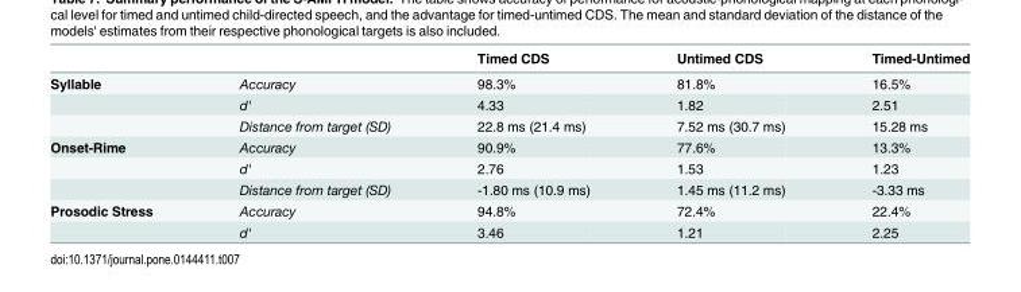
<table><thead><tr><td></td><td></td><td>Timed CDS</td><td>Untimed CDS</td><td>Timed-Untimed</td></tr></thead><tbody><tr><td rowspan="3">Syllable</td><td>Accuracy</td><td>98.3%</td><td>81.8%</td><td>16.5%</td></tr><tr><td>d&#x27;</td><td>4.33</td><td>1.82</td><td>2.51</td></tr><tr><td>Distance from target (SD)</td><td>22.8 ms (21.4 ms)</td><td>7.52 ms (30.7 ms)</td><td>15.28 ms</td></tr><tr><td rowspan="3">Onset-Rime</td><td>Accuracy</td><td>90.9%</td><td>77.6%</td><td>13.3%</td></tr><tr><td>d&#x27;</td><td>2.76</td><td>1.53</td><td>1.23</td></tr><tr><td>Distance from target (SD)</td><td>-1.80 ms (10.9 ms)</td><td>1.45 ms (11.2 ms)</td><td>-3.33 ms</td></tr><tr><td rowspan="2">Prosodic Stress</td><td>Accuracy</td><td>94.8%</td><td>72.4%</td><td>22.4%</td></tr><tr><td>d&#x27;</td><td>3.46</td><td>1.21</td><td>2.25</td></tr></tbody></table>